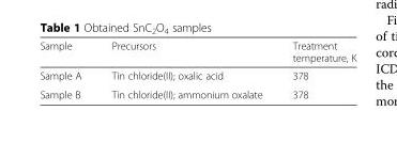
<table><thead><tr><td>Sample</td><td>Precursors</td><td>Treatment temperature, K</td></tr></thead><tbody><tr><td>Sample A</td><td>Tin chloride(II); oxalic acid</td><td>378</td></tr><tr><td>Sample B</td><td>Tin chloride(II); ammonium oxalate</td><td>378</td></tr></tbody></table>